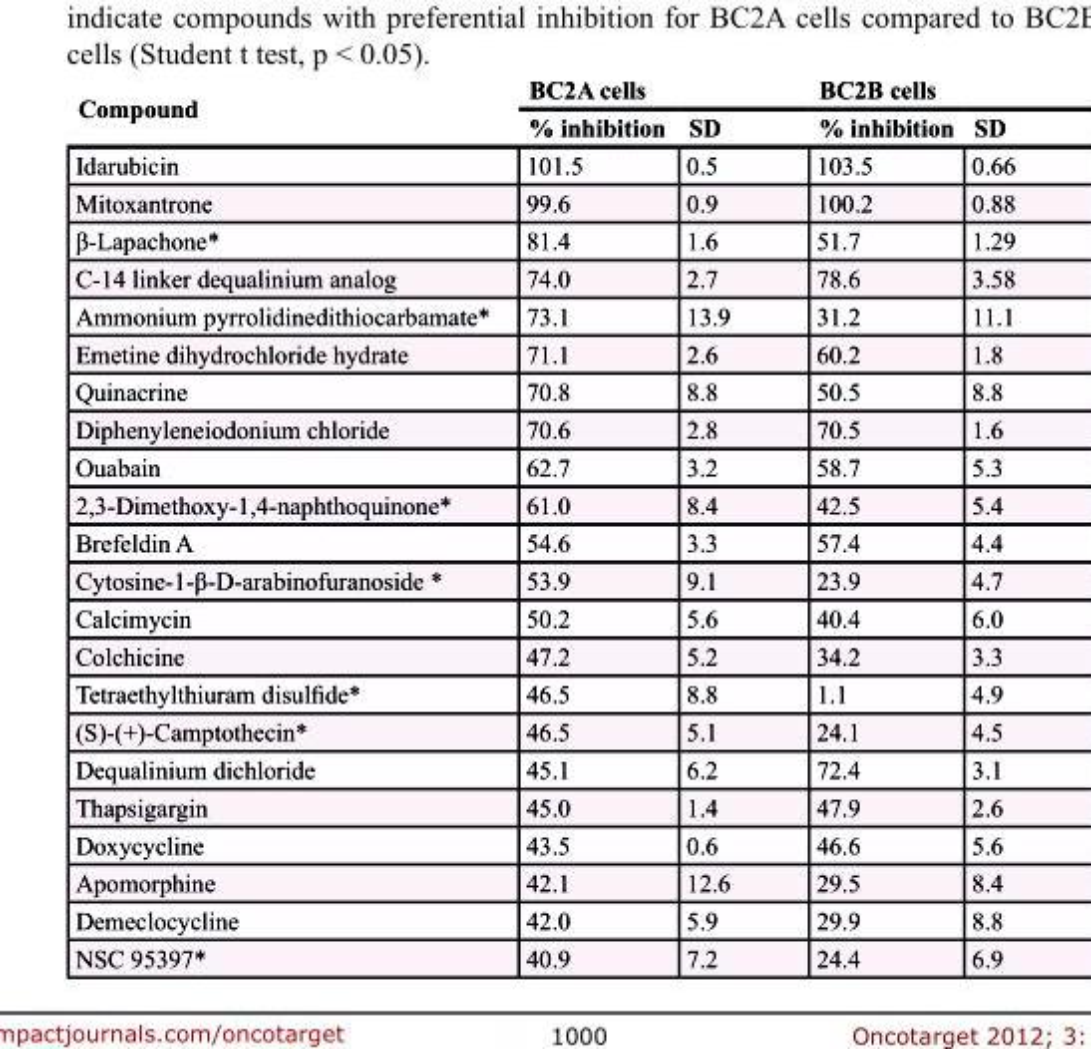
<table><thead><tr><td rowspan="2">compound</td><td colspan="2">bc2A cells</td><td colspan="2">bc2b cells</td></tr><tr><td>% inhibition</td><td>sD</td><td>% inhibition</td><td>sD</td></tr></thead><tbody><tr><td>Idarubicin</td><td>101.5</td><td>0.5</td><td>103.5</td><td>0.66</td></tr><tr><td>Mitoxantrone</td><td>99.6</td><td>0.9</td><td>100.2</td><td>0.88</td></tr><tr><td>β-Lapachone*</td><td>81.4</td><td>1.6</td><td>51.7</td><td>1.29</td></tr><tr><td>C-14 linker dequalinium analog</td><td>74.0</td><td>2.7</td><td>78.6</td><td>3.58</td></tr><tr><td>Ammonium pyrrolidinedithiocarbamate*</td><td>73.1</td><td>13.9</td><td>31.2</td><td>11.1</td></tr><tr><td>Emetine dihydrochloride hydrate</td><td>71.1</td><td>2.6</td><td>60.2</td><td>1.8</td></tr><tr><td>Quinacrine</td><td>70.8</td><td>8.8</td><td>50.5</td><td>8.8</td></tr><tr><td>Diphenyleneiodonium chloride</td><td>70.6</td><td>2.8</td><td>70.5</td><td>1.6</td></tr><tr><td>Ouabain</td><td>62.7</td><td>3.2</td><td>58.7</td><td>5.3</td></tr><tr><td>2,3-Dimethoxy-1,4-naphthoquinone*</td><td>61.0</td><td>8.4</td><td>42.5</td><td>5.4</td></tr><tr><td>Brefeldin A</td><td>54.6</td><td>3.3</td><td>57.4</td><td>4.4</td></tr><tr><td>Cytosine-1-β-D-arabinofuranoside *</td><td>53.9</td><td>9.1</td><td>23.9</td><td>4.7</td></tr><tr><td>Calcimycin</td><td>50.2</td><td>5.6</td><td>40.4</td><td>6.0</td></tr><tr><td>Colchicine</td><td>47.2</td><td>5.2</td><td>34.2</td><td>3.3</td></tr><tr><td>Tetraethylthiuram disulfide*</td><td>46.5</td><td>8.8</td><td>1.1</td><td>4.9</td></tr><tr><td>(S)-(+)-Camptothecin*</td><td>46.5</td><td>5.1</td><td>24.1</td><td>4.5</td></tr><tr><td>Dequalinium dichloride</td><td>45.1</td><td>6.2</td><td>72.4</td><td>3.1</td></tr><tr><td>Thapsigargin</td><td>45.0</td><td>1.4</td><td>47.9</td><td>2.6</td></tr><tr><td>Doxycycline</td><td>43.5</td><td>0.6</td><td>46.6</td><td>5.6</td></tr><tr><td>Apomorphine</td><td>42.1</td><td>12.6</td><td>29.5</td><td>8.4</td></tr><tr><td>Demeclocycline</td><td>42.0</td><td>5.9</td><td>29.9</td><td>8.8</td></tr><tr><td>NSC 95397*</td><td>40.9</td><td>7.2</td><td>24.4</td><td>6.9</td></tr></tbody></table>